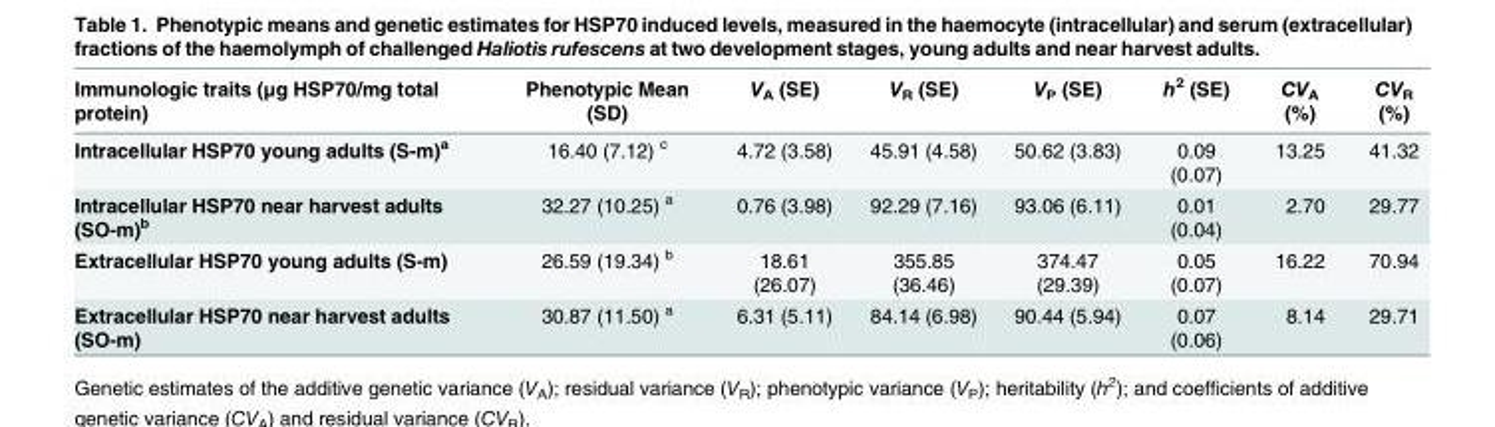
<table><thead><tr><td>Immunologic traits (μg HSP70/mg total protein)</td><td>Phenotypic Mean (SD)</td><td>V<sub>A</sub> (SE)</td><td>V<sub>R</sub> (SE)</td><td>V<sub>P</sub> (SE)</td><td>h<sup>2</sup> (SE)</td><td>CV<sub>A</sub> (%)</td><td>CV<sub>R</sub> (%)</td></tr></thead><tbody><tr><td>Intracellular HSP70 young adults (S-m)<sup>a</sup></td><td>16.40 (7.12) <sup>c</sup></td><td>4.72 (3.58)</td><td>45.91 (4.58)</td><td>50.62 (3.83)</td><td>0.09 (0.07)</td><td>13.25</td><td>41.32</td></tr><tr><td>Intracellular HSP70 near harvest adults (SO-m)<sup>b</sup></td><td>32.27 (10.25) <sup>a</sup></td><td>0.76 (3.98)</td><td>92.29 (7.16)</td><td>93.06 (6.11)</td><td>0.01 (0.04)</td><td>2.70</td><td>29.77</td></tr><tr><td>Extracellular HSP70 young adults (S-m)</td><td>26.59 (19.34) <sup>b</sup></td><td>18.61 (26.07)</td><td>355.85 (36.46)</td><td>374.47 (29.39)</td><td>0.05 (0.07)</td><td>16.22</td><td>70.94</td></tr><tr><td>Extracellular HSP70 near harvest adults (SO-m)</td><td>30.87 (11.50) <sup>a</sup></td><td>6.31 (5.11)</td><td>84.14 (6.98)</td><td>90.44 (5.94)</td><td>0.07 (0.06)</td><td>8.14</td><td>29.71</td></tr></tbody></table>